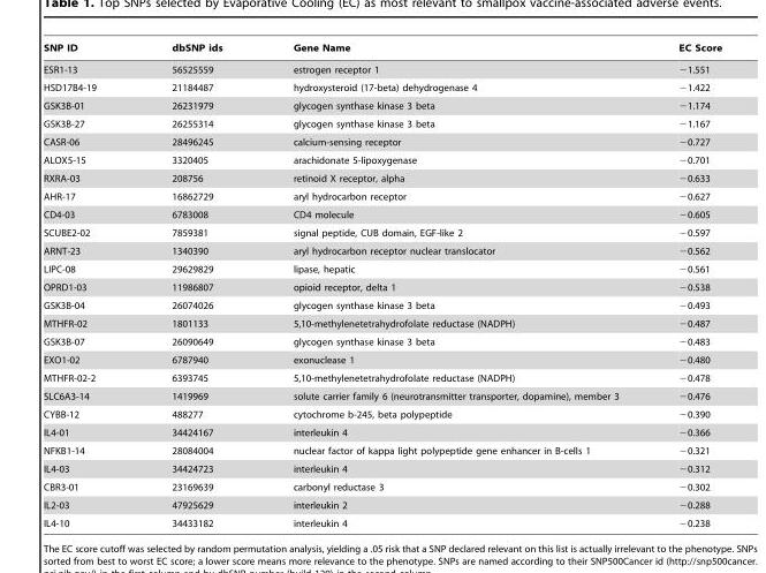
<table><thead><tr><td>SNP ID</td><td>dbSNP ids</td><td>Gene Name</td><td>EC Score</td></tr></thead><tbody><tr><td>ESR1-13</td><td>56525559</td><td>estrogen receptor 1</td><td>−1.551</td></tr><tr><td>HSD17B4-19</td><td>21184487</td><td>hydroxysteroid (17-beta) dehydrogenase 4</td><td>−1.422</td></tr><tr><td>GSK3B-01</td><td>26231979</td><td>glycogen synthase kinase 3 beta</td><td>−1.174</td></tr><tr><td>GSK3B-27</td><td>26255314</td><td>glycogen synthase kinase 3 beta</td><td>−1.167</td></tr><tr><td>CASR-06</td><td>28496245</td><td>calcium-sensing receptor</td><td>−0.727</td></tr><tr><td>ALOX5-15</td><td>3320405</td><td>arachidonate 5-lipoxygenase</td><td>−0.701</td></tr><tr><td>RXRA-03</td><td>208756</td><td>retinoid X receptor, alpha</td><td>−0.633</td></tr><tr><td>AHR-17</td><td>16862729</td><td>aryl hydrocarbon receptor</td><td>−0.627</td></tr><tr><td>CD4-03</td><td>6783008</td><td>CD4 molecule</td><td>−0.605</td></tr><tr><td>SCUBE2-02</td><td>7859381</td><td>signal peptide, CUB domain, EGF-like 2</td><td>−0.597</td></tr><tr><td>ARNT-23</td><td>1340390</td><td>aryl hydrocarbon receptor nuclear translocator</td><td>−0.562</td></tr><tr><td>LIPC-08</td><td>29629829</td><td>lipase, hepatic</td><td>−0.561</td></tr><tr><td>OPRD1-03</td><td>11986807</td><td>opioid receptor, delta 1</td><td>−0.538</td></tr><tr><td>GSK3B-04</td><td>26074026</td><td>glycogen synthase kinase 3 beta</td><td>−0.493</td></tr><tr><td>MTHFR-02</td><td>1801133</td><td>5,10-methylenetetrahydrofolate reductase (NADPH)</td><td>−0.487</td></tr><tr><td>GSK3B-07</td><td>26090649</td><td>glycogen synthase kinase 3 beta</td><td>−0.483</td></tr><tr><td>EXO1-02</td><td>6787940</td><td>exonuclease 1</td><td>−0.480</td></tr><tr><td>MTHFR-02-2</td><td>6393745</td><td>5,10-methylenetetrahydrofolate reductase (NADPH)</td><td>−0.478</td></tr><tr><td>SLC6A3-14</td><td>1419969</td><td>solute carrier family 6 (neurotransmitter transporter, dopamine), member 3</td><td>−0.476</td></tr><tr><td>CYBB-12</td><td>488277</td><td>cytochrome b-245, beta polypeptide</td><td>−0.390</td></tr><tr><td>IL4-01</td><td>34424167</td><td>interleukin 4</td><td>−0.366</td></tr><tr><td>NFKB1-14</td><td>28084004</td><td>nuclear factor of kappa light polypeptide gene enhancer in B-cells 1</td><td>−0.321</td></tr><tr><td>IL4-03</td><td>34424723</td><td>interleukin 4</td><td>−0.312</td></tr><tr><td>CBR3-01</td><td>23169639</td><td>carbonyl reductase 3</td><td>−0.302</td></tr><tr><td>IL2-03</td><td>47925629</td><td>interleukin 2</td><td>−0.288</td></tr><tr><td>IL4-10</td><td>34433182</td><td>interleukin 4</td><td>−0.238</td></tr></tbody></table>